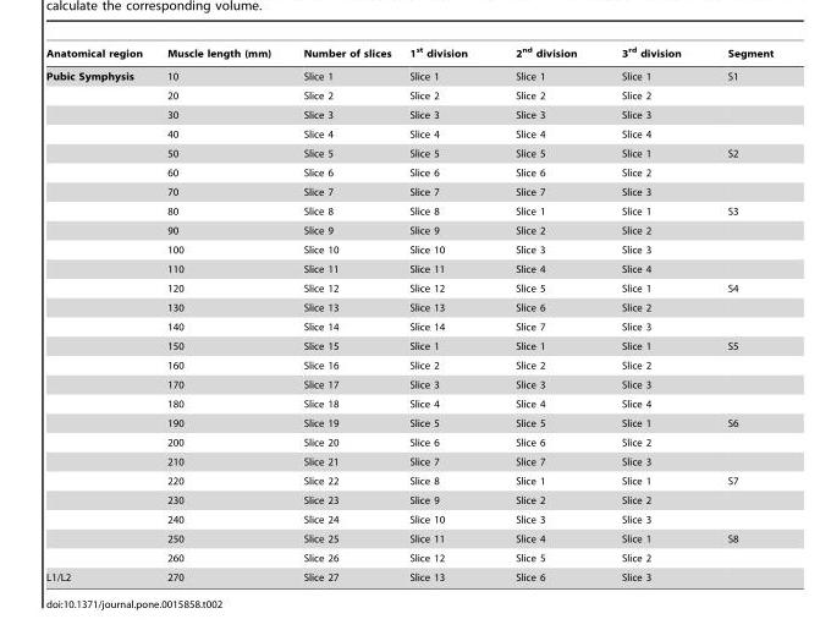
<table><thead><tr><td>Anatomical region</td><td>Muscle length (mm)</td><td>Number of slices</td><td>1<sup>st</sup> division</td><td>2<sup>nd</sup> division</td><td>3<sup>rd</sup> division</td><td>Segment</td></tr></thead><tbody><tr><td rowspan="26">Pubic Symphysis</td><td>10</td><td>Slice 1</td><td>Slice 1</td><td>Slice 1</td><td>Slice 1</td><td>S1</td></tr><tr><td>20</td><td>Slice 2</td><td>Slice 2</td><td>Slice 2</td><td>Slice 2</td><td></td></tr><tr><td>30</td><td>Slice 3</td><td>Slice 3</td><td>Slice 3</td><td>Slice 3</td><td></td></tr><tr><td>40</td><td>Slice 4</td><td>Slice 4</td><td>Slice 4</td><td>Slice 4</td><td></td></tr><tr><td>50</td><td>Slice 5</td><td>Slice 5</td><td>Slice 5</td><td>Slice 1</td><td>S2</td></tr><tr><td>60</td><td>Slice 6</td><td>Slice 6</td><td>Slice 6</td><td>Slice 2</td><td></td></tr><tr><td>70</td><td>Slice 7</td><td>Slice 7</td><td>Slice 7</td><td>Slice 3</td><td></td></tr><tr><td>80</td><td>Slice 8</td><td>Slice 8</td><td>Slice 1</td><td>Slice 1</td><td>S3</td></tr><tr><td>90</td><td>Slice 9</td><td>Slice 9</td><td>Slice 2</td><td>Slice 2</td><td></td></tr><tr><td>100</td><td>Slice 10</td><td>Slice 10</td><td>Slice 3</td><td>Slice 3</td><td></td></tr><tr><td>110</td><td>Slice 11</td><td>Slice 11</td><td>Slice 4</td><td>Slice 4</td><td></td></tr><tr><td>120</td><td>Slice 12</td><td>Slice 12</td><td>Slice 5</td><td>Slice 1</td><td>S4</td></tr><tr><td>130</td><td>Slice 13</td><td>Slice 13</td><td>Slice 6</td><td>Slice 2</td><td></td></tr><tr><td>140</td><td>Slice 14</td><td>Slice 14</td><td>Slice 7</td><td>Slice 3</td><td></td></tr><tr><td>150</td><td>Slice 15</td><td>Slice 1</td><td>Slice 1</td><td>Slice 1</td><td>S5</td></tr><tr><td>160</td><td>Slice 16</td><td>Slice 2</td><td>Slice 2</td><td>Slice 2</td><td></td></tr><tr><td>170</td><td>Slice 17</td><td>Slice 3</td><td>Slice 3</td><td>Slice 3</td><td></td></tr><tr><td>180</td><td>Slice 18</td><td>Slice 4</td><td>Slice 4</td><td>Slice 4</td><td></td></tr><tr><td>190</td><td>Slice 19</td><td>Slice 5</td><td>Slice 5</td><td>Slice 1</td><td>S6</td></tr><tr><td>200</td><td>Slice 20</td><td>Slice 6</td><td>Slice 6</td><td>Slice 2</td><td></td></tr><tr><td>210</td><td>Slice 21</td><td>Slice 7</td><td>Slice 7</td><td>Slice 3</td><td></td></tr><tr><td>220</td><td>Slice 22</td><td>Slice 8</td><td>Slice 1</td><td>Slice 1</td><td>S7</td></tr><tr><td>230</td><td>Slice 23</td><td>Slice 9</td><td>Slice 2</td><td>Slice 2</td><td></td></tr><tr><td>240</td><td>Slice 24</td><td>Slice 10</td><td>Slice 3</td><td>Slice 3</td><td></td></tr><tr><td>250</td><td>Slice 25</td><td>Slice 11</td><td>Slice 4</td><td>Slice 1</td><td>S8</td></tr><tr><td>260</td><td>Slice 26</td><td>Slice 12</td><td>Slice 5</td><td>Slice 2</td><td></td></tr><tr><td>L1/L2</td><td>270</td><td>Slice 27</td><td>Slice 13</td><td>Slice 6</td><td>Slice 3</td><td></td></tr></tbody></table>